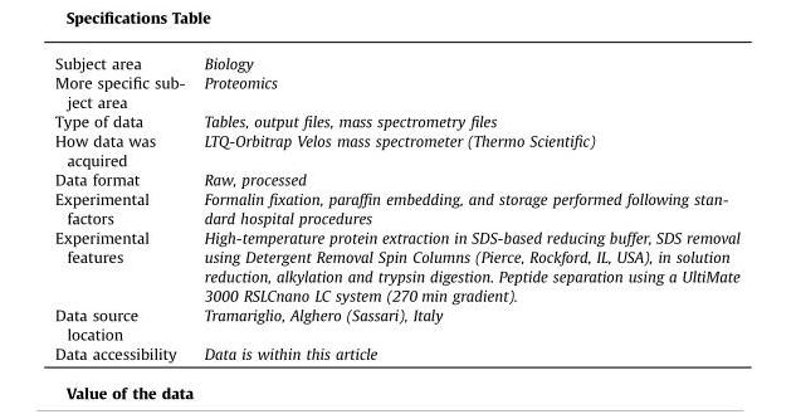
<table><tbody><tr><td>Subject area</td><td>Biology</td></tr><tr><td>More specific sub- ject area</td><td>Proteomics</td></tr><tr><td>Type of data</td><td>Tables, output files, mass spectrometry files</td></tr><tr><td>How data was acquired</td><td>LTQ-Orbitrap Velos mass spectrometer (Thermo Scientific)</td></tr><tr><td>Data format</td><td>Raw, processed</td></tr><tr><td>Experimental factors</td><td>Formalin fixation, paraffin embedding, and storage performed following stan- dard hospital procedures</td></tr><tr><td>Experimental features</td><td>High-temperature protein extraction in SDS-based reducing buffer, SDS removal using Detergent Removal Spin Columns (Pierce, Rockford, IL, USA), in solution reduction, alkylation and trypsin digestion. Peptide separation using a UltiMate 3000 RSLCnano LC system (270 min gradient).</td></tr><tr><td>Data source location</td><td>Tramariglio, Alghero (Sassari), Italy</td></tr><tr><td>Data accessibility</td><td>Data is within this article</td></tr></tbody></table>